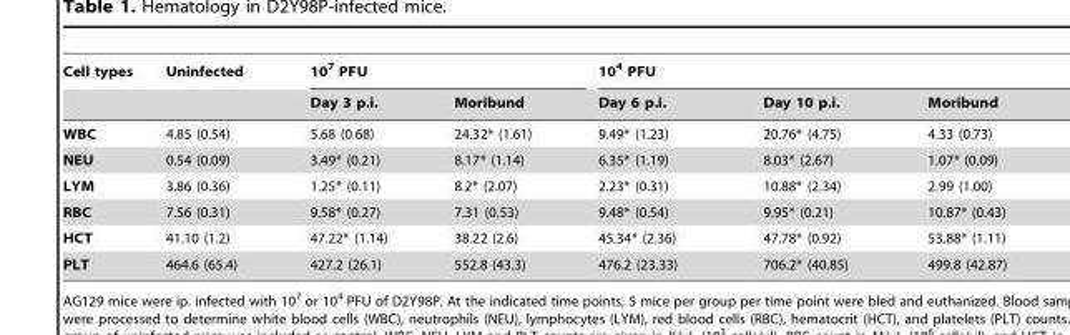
<table><thead><tr><td rowspan="2">Cell types</td><td rowspan="2">Uninfected</td><td colspan="2">10<sup>7</sup> PFU</td><td colspan="3">10<sup>4</sup> PFU</td></tr><tr><td>Day 3 p.i.</td><td>Moribund</td><td>Day 6 p.i.</td><td>Day 10 p.i.</td><td>Moribund</td></tr></thead><tbody><tr><td>WBC</td><td>4.85 (0.54)</td><td>5.68 (0.68)</td><td>24.32* (1.61)</td><td>9.49* (1.23)</td><td>20.76* (4.75)</td><td>4.33 (0.73)</td></tr><tr><td>NEU</td><td>0.54 (0.09)</td><td>3.49* (0.21)</td><td>8.17* (1.14)</td><td>6.35* (1.19)</td><td>8.03* (2.67)</td><td>1.07* (0.09)</td></tr><tr><td>LYM</td><td>3.86 (0.36)</td><td>1.25* (0.11)</td><td>8.2* (2.07)</td><td>2.23* (0.31)</td><td>10.88* (2.34)</td><td>2.99 (1.00)</td></tr><tr><td>RBC</td><td>7.56 (0.31)</td><td>9.58* (0.27)</td><td>7.31 (0.53)</td><td>9.48* (0.54)</td><td>9.95* (0.21)</td><td>10.87* (0.43)</td></tr><tr><td>HCT</td><td>41.10 (1.2)</td><td>47.22* (1.14)</td><td>38.22 (2.6)</td><td>45.34* (2.36)</td><td>47.78* (0.92)</td><td>53.88* (1.11)</td></tr><tr><td>PLT</td><td>464.6 (65.4)</td><td>427.2 (26.1)</td><td>552.8 (43.3)</td><td>476.2 (23.33)</td><td>706.2* (40.85)</td><td>499.8 (42.87)</td></tr></tbody></table>